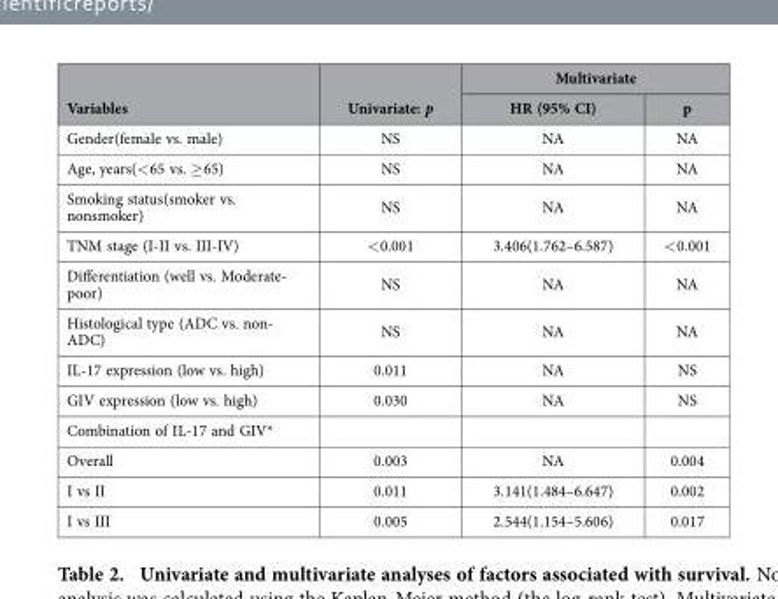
<table><thead><tr><td rowspan="2">Variables</td><td rowspan="2">Univariate: p</td><td colspan="2">Multivariate</td></tr><tr><td>HR (95% CI)</td><td>p</td></tr></thead><tbody><tr><td>Gender(female vs. male)</td><td>NS</td><td>NA</td><td>NA</td></tr><tr><td>Age, years(&lt; 65 vs. ≥ 65)</td><td>NS</td><td>NA</td><td>NA</td></tr><tr><td>Smoking status(smoker vs. nonsmoker)</td><td>NS</td><td>NA</td><td>NA</td></tr><tr><td>TNM stage (I-II vs. III-IV)</td><td>&lt; 0.001</td><td>3.406(1.762–6.587)</td><td>&lt; 0.001</td></tr><tr><td>Differentiation (well vs. Moderate- poor)</td><td>NS</td><td>NA</td><td>NA</td></tr><tr><td>Histological type (ADC vs. non- ADC)</td><td>NS</td><td>NA</td><td>NA</td></tr><tr><td>IL-17 expression (low vs. high)</td><td>0.011</td><td>NA</td><td>NS</td></tr><tr><td>GIV expression (low vs. high)</td><td>0.030</td><td>NA</td><td>NS</td></tr><tr><td colspan="4">Combination of IL-17 and GIV*</td></tr><tr><td>Overall</td><td>0.003</td><td>NA</td><td>0.004</td></tr><tr><td>I vs II</td><td>0.011</td><td>3.141(1.484–6.647)</td><td>0.002</td></tr><tr><td>I vs III</td><td>0.005</td><td>2.544(1.154–5.606)</td><td>0.017</td></tr></tbody></table>